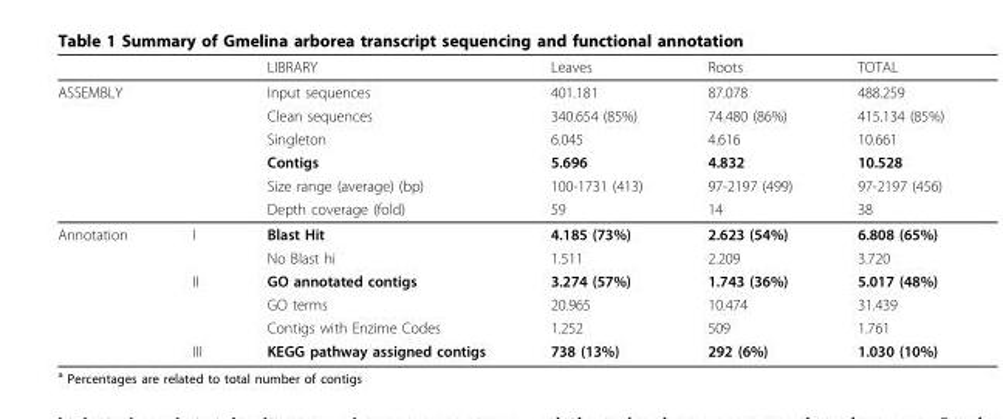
<table><thead><tr><td></td><td></td><td>LIBRARY</td><td>Leaves</td><td>Roots</td><td>TOTAL</td></tr></thead><tbody><tr><td rowspan="6">ASSEMBLY</td><td></td><td>Input sequences</td><td>401.181</td><td>87.078</td><td>488.259</td></tr><tr><td></td><td>Clean sequences</td><td>340.654 (85%)</td><td>74.480 (86%)</td><td>415.134 (85%)</td></tr><tr><td></td><td>Singleton</td><td>6.045</td><td>4.616</td><td>10.661</td></tr><tr><td></td><td>Contigs</td><td>5.696</td><td>4.832</td><td>10.528</td></tr><tr><td></td><td>Size range (average) (bp)</td><td>100-1731 (413)</td><td>97-2197 (499)</td><td>97-2197 (456)</td></tr><tr><td></td><td>Depth coverage (fold)</td><td>59</td><td>14</td><td>38</td></tr><tr><td rowspan="6">Annotation</td><td>I</td><td>Blast Hit</td><td>4.185 (73%)</td><td>2.623 (54%)</td><td>6.808 (65%)</td></tr><tr><td></td><td>No Blast hi</td><td>1.511</td><td>2.209</td><td>3.720</td></tr><tr><td>II</td><td>GO annotated contigs</td><td>3.274 (57%)</td><td>1.743 (36%)</td><td>5.017 (48%)</td></tr><tr><td></td><td>GO terms</td><td>20.965</td><td>10.474</td><td>31.439</td></tr><tr><td></td><td>Contigs with Enzime Codes</td><td>1.252</td><td>509</td><td>1.761</td></tr><tr><td>III</td><td>KEGG pathway assigned contigs</td><td>738 (13%)</td><td>292 (6%)</td><td>1.030 (10%)</td></tr></tbody></table>